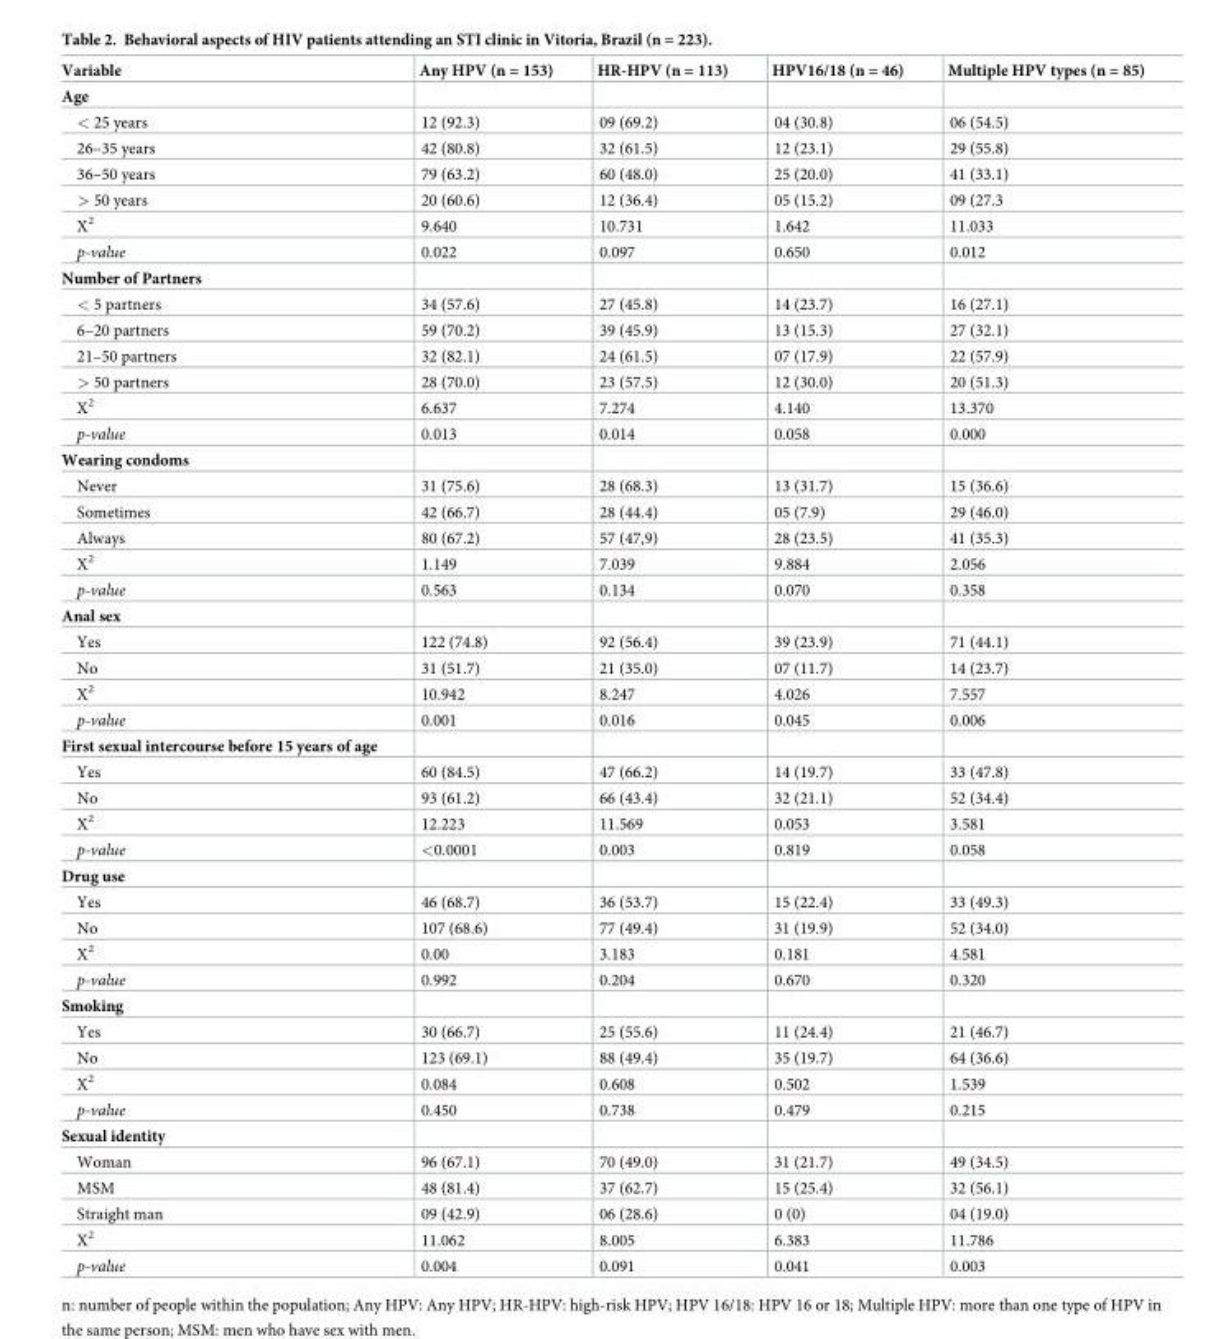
<table><thead><tr><td>Variable</td><td>Any HPV (n = 153)</td><td>HR-HPV (n = 113)</td><td>HPV16/18 (n = 46)</td><td>Multiple HPV types (n = 85)</td></tr></thead><tbody><tr><td colspan="5">Age</td></tr><tr><td>&lt; 25 years</td><td>12 (92.3)</td><td>09 (69.2)</td><td>04 (30.8)</td><td>06 (54.5)</td></tr><tr><td>26–35 years</td><td>42 (80.8)</td><td>32 (61.5)</td><td>12 (23.1)</td><td>29 (55.8)</td></tr><tr><td>36–50 years</td><td>79 (63.2)</td><td>60 (48.0)</td><td>25 (20.0)</td><td>41 (33.1)</td></tr><tr><td>&gt; 50 years</td><td>20 (60.6)</td><td>12 (36.4)</td><td>05 (15.2)</td><td>09 (27.3</td></tr><tr><td>X<sup>2</sup></td><td>9.640</td><td>10.731</td><td>1.642</td><td>11.033</td></tr><tr><td>p-value</td><td>0.022</td><td>0.097</td><td>0.650</td><td>0.012</td></tr><tr><td colspan="5">Number of Partners</td></tr><tr><td>&lt; 5 partners</td><td>34 (57.6)</td><td>27 (45.8)</td><td>14 (23.7)</td><td>16 (27.1)</td></tr><tr><td>6–20 partners</td><td>59 (70.2)</td><td>39 (45.9)</td><td>13 (15.3)</td><td>27 (32.1)</td></tr><tr><td>21–50 partners</td><td>32 (82.1)</td><td>24 (61.5)</td><td>07 (17.9)</td><td>22 (57.9)</td></tr><tr><td>&gt; 50 partners</td><td>28 (70.0)</td><td>23 (57.5)</td><td>12 (30.0)</td><td>20 (51.3)</td></tr><tr><td>X<sup>2</sup></td><td>6.637</td><td>7.274</td><td>4.140</td><td>13.370</td></tr><tr><td>p-value</td><td>0.013</td><td>0.014</td><td>0.058</td><td>0.000</td></tr><tr><td colspan="5">Wearing condoms</td></tr><tr><td>Never</td><td>31 (75.6)</td><td>28 (68.3)</td><td>13 (31.7)</td><td>15 (36.6)</td></tr><tr><td>Sometimes</td><td>42 (66.7)</td><td>28 (44.4)</td><td>05 (7.9)</td><td>29 (46.0)</td></tr><tr><td>Always</td><td>80 (67.2)</td><td>57 (47,9)</td><td>28 (23.5)</td><td>41 (35.3)</td></tr><tr><td>X<sup>2</sup></td><td>1.149</td><td>7.039</td><td>9.884</td><td>2.056</td></tr><tr><td>p-value</td><td>0.563</td><td>0.134</td><td>0.070</td><td>0.358</td></tr><tr><td colspan="5">Anal sex</td></tr><tr><td>Yes</td><td>122 (74.8)</td><td>92 (56.4)</td><td>39 (23.9)</td><td>71 (44.1)</td></tr><tr><td>No</td><td>31 (51.7)</td><td>21 (35.0)</td><td>07 (11.7)</td><td>14 (23.7)</td></tr><tr><td>X<sup>2</sup></td><td>10.942</td><td>8.247</td><td>4.026</td><td>7.557</td></tr><tr><td>p-value</td><td>0.001</td><td>0.016</td><td>0.045</td><td>0.006</td></tr><tr><td colspan="5">First sexual intercourse before 15 years of age</td></tr><tr><td>Yes</td><td>60 (84.5)</td><td>47 (66.2)</td><td>14 (19.7)</td><td>33 (47.8)</td></tr><tr><td>No</td><td>93 (61.2)</td><td>66 (43.4)</td><td>32 (21.1)</td><td>52 (34.4)</td></tr><tr><td>X<sup>2</sup></td><td>12.223</td><td>11.569</td><td>0.053</td><td>3.581</td></tr><tr><td>p-value</td><td>&lt;0.0001</td><td>0.003</td><td>0.819</td><td>0.058</td></tr><tr><td colspan="5">Drug use</td></tr><tr><td>Yes</td><td>46 (68.7)</td><td>36 (53.7)</td><td>15 (22.4)</td><td>33 (49.3)</td></tr><tr><td>No</td><td>107 (68.6)</td><td>77 (49.4)</td><td>31 (19.9)</td><td>52 (34.0)</td></tr><tr><td>X<sup>2</sup></td><td>0.00</td><td>3.183</td><td>0.181</td><td>4.581</td></tr><tr><td>p-value</td><td>0.992</td><td>0.204</td><td>0.670</td><td>0.320</td></tr><tr><td colspan="5">Smoking</td></tr><tr><td>Yes</td><td>30 (66.7)</td><td>25 (55.6)</td><td>11 (24.4)</td><td>21 (46.7)</td></tr><tr><td>No</td><td>123 (69.1)</td><td>88 (49.4)</td><td>35 (19.7)</td><td>64 (36.6)</td></tr><tr><td>X<sup>2</sup></td><td>0.084</td><td>0.608</td><td>0.502</td><td>1.539</td></tr><tr><td>p-value</td><td>0.450</td><td>0.738</td><td>0.479</td><td>0.215</td></tr><tr><td colspan="5">Sexual identity</td></tr><tr><td>Woman</td><td>96 (67.1)</td><td>70 (49.0)</td><td>31 (21.7)</td><td>49 (34.5)</td></tr><tr><td>MSM</td><td>48 (81.4)</td><td>37 (62.7)</td><td>15 (25.4)</td><td>32 (56.1)</td></tr><tr><td>Straight man</td><td>09 (42.9)</td><td>06 (28.6)</td><td>0 (0)</td><td>04 (19.0)</td></tr><tr><td>X<sup>2</sup></td><td>11.062</td><td>8.005</td><td>6.383</td><td>11.786</td></tr><tr><td>p-value</td><td>0.004</td><td>0.091</td><td>0.041</td><td>0.003</td></tr></tbody></table>